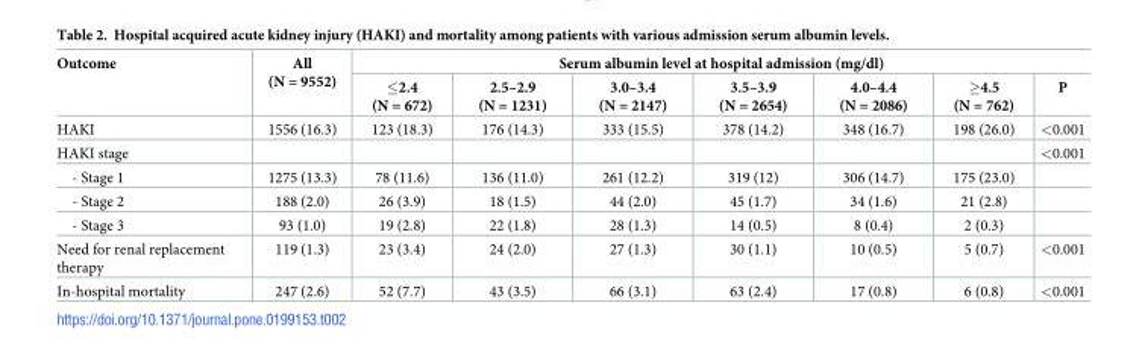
<table><thead><tr><td rowspan="2">Outcome</td><td rowspan="2">All (N = 9552)</td><td colspan="7">Serum albumin level at hospital admission (mg/dl)</td></tr><tr><td>≤2.4 (N = 672)</td><td>2.5–2.9 (N = 1231)</td><td>3.0–3.4 (N = 2147)</td><td>3.5–3.9 (N = 2654)</td><td>4.0–4.4 (N = 2086)</td><td>≥4.5 (N = 762)</td><td>P</td></tr></thead><tbody><tr><td>HAKI</td><td>1556 (16.3)</td><td>123 (18.3)</td><td>176 (14.3)</td><td>333 (15.5)</td><td>378 (14.2)</td><td>348 (16.7)</td><td>198 (26.0)</td><td>&lt;0.001</td></tr><tr><td>HAKI stage</td><td></td><td></td><td></td><td></td><td></td><td></td><td></td><td>&lt;0.001</td></tr><tr><td>- Stage 1</td><td>1275 (13.3)</td><td>78 (11.6)</td><td>136 (11.0)</td><td>261 (12.2)</td><td>319 (12)</td><td>306 (14.7)</td><td>175 (23.0)</td><td></td></tr><tr><td>- Stage 2</td><td>188 (2.0)</td><td>26 (3.9)</td><td>18 (1.5)</td><td>44 (2.0)</td><td>45 (1.7)</td><td>34 (1.6)</td><td>21 (2.8)</td><td></td></tr><tr><td>- Stage 3</td><td>93 (1.0)</td><td>19 (2.8)</td><td>22 (1.8)</td><td>28 (1.3)</td><td>14 (0.5)</td><td>8 (0.4)</td><td>2 (0.3)</td><td></td></tr><tr><td>Need for renal replacement therapy</td><td>119 (1.3)</td><td>23 (3.4)</td><td>24 (2.0)</td><td>27 (1.3)</td><td>30 (1.1)</td><td>10 (0.5)</td><td>5 (0.7)</td><td>&lt;0.001</td></tr><tr><td>In-hospital mortality</td><td>247 (2.6)</td><td>52 (7.7)</td><td>43 (3.5)</td><td>66 (3.1)</td><td>63 (2.4)</td><td>17 (0.8)</td><td>6 (0.8)</td><td>&lt;0.001</td></tr></tbody></table>